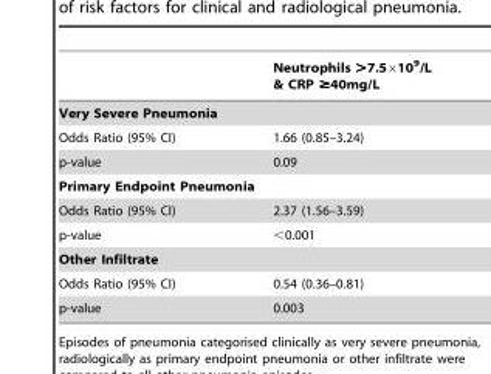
<table><thead><tr><td></td><td>Neutrophils &gt;7.5×10<sup>9</sup>/L &amp; CRP ≥40mg/L</td></tr></thead><tbody><tr><td colspan="2">Very Severe Pneumonia</td></tr><tr><td>Odds Ratio (95% CI)</td><td>1.66 (0.85–3.24)</td></tr><tr><td>p-value</td><td>0.09</td></tr><tr><td colspan="2">Primary Endpoint Pneumonia</td></tr><tr><td>Odds Ratio (95% CI)</td><td>2.37 (1.56–3.59)</td></tr><tr><td>p-value</td><td>&lt;0.001</td></tr><tr><td colspan="2">Other Infiltrate</td></tr><tr><td>Odds Ratio (95% CI)</td><td>0.54 (0.36–0.81)</td></tr><tr><td>p-value</td><td>0.003</td></tr></tbody></table>